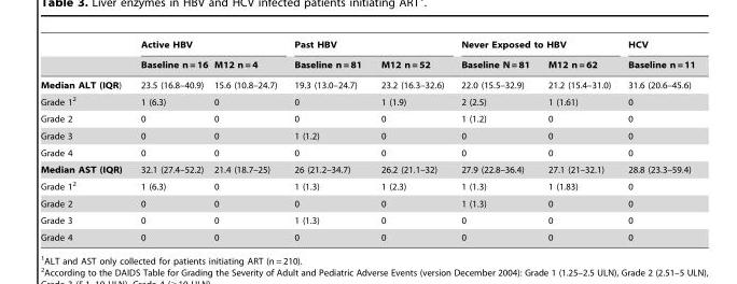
<table><thead><tr><td rowspan="2"></td><td colspan="2">Active HBV</td><td colspan="2">Past HBV</td><td colspan="2">Never Exposed to HBV</td><td rowspan="2">HCV Baseline n = 11</td></tr><tr><td>Baseline n = 16</td><td>M12 n = 4</td><td>Baseline n = 81</td><td>M12 n = 52</td><td>Baseline N = 81</td><td>M12 n = 62</td></tr></thead><tbody><tr><td>Median ALT (IQR)</td><td>23.5 (16.8–40.9)</td><td>15.6 (10.8–24.7)</td><td>19.3 (13.0–24.7)</td><td>23.2 (16.3–32.6)</td><td>22.0 (15.5–32.9)</td><td>21.2 (15.4–31.0)</td><td>31.6 (20.6–45.6)</td></tr><tr><td>Grade 1<sup>2</sup></td><td>1 (6.3)</td><td>0</td><td>0</td><td>1 (1.9)</td><td>2 (2.5)</td><td>1 (1.61)</td><td>0</td></tr><tr><td>Grade 2</td><td>0</td><td>0</td><td>0</td><td>0</td><td>1 (1.2)</td><td>0</td><td>0</td></tr><tr><td>Grade 3</td><td>0</td><td>0</td><td>1 (1.2)</td><td>0</td><td>0</td><td>0</td><td>0</td></tr><tr><td>Grade 4</td><td>0</td><td>0</td><td>0</td><td>0</td><td>0</td><td>0</td><td>0</td></tr><tr><td>Median AST (IQR)</td><td>32.1 (27.4–52.2)</td><td>21.4 (18.7–25)</td><td>26 (21.2–34.7)</td><td>26.2 (21.1–32)</td><td>27.9 (22.8–36.4)</td><td>27.1 (21–32.1)</td><td>28.8 (23.3–59.4)</td></tr><tr><td>Grade 1<sup>2</sup></td><td>1 (6.3)</td><td>0</td><td>1 (1.3)</td><td>1 (2.3)</td><td>1 (1.3)</td><td>1 (1.83)</td><td>0</td></tr><tr><td>Grade 2</td><td>0</td><td>0</td><td>0</td><td>0</td><td>1 (1.3)</td><td>0</td><td>0</td></tr><tr><td>Grade 3</td><td>0</td><td>0</td><td>1 (1.3)</td><td>0</td><td>0</td><td>0</td><td>0</td></tr><tr><td>Grade 4</td><td>0</td><td>0</td><td>0</td><td>0</td><td>0</td><td>0</td><td>0</td></tr></tbody></table>